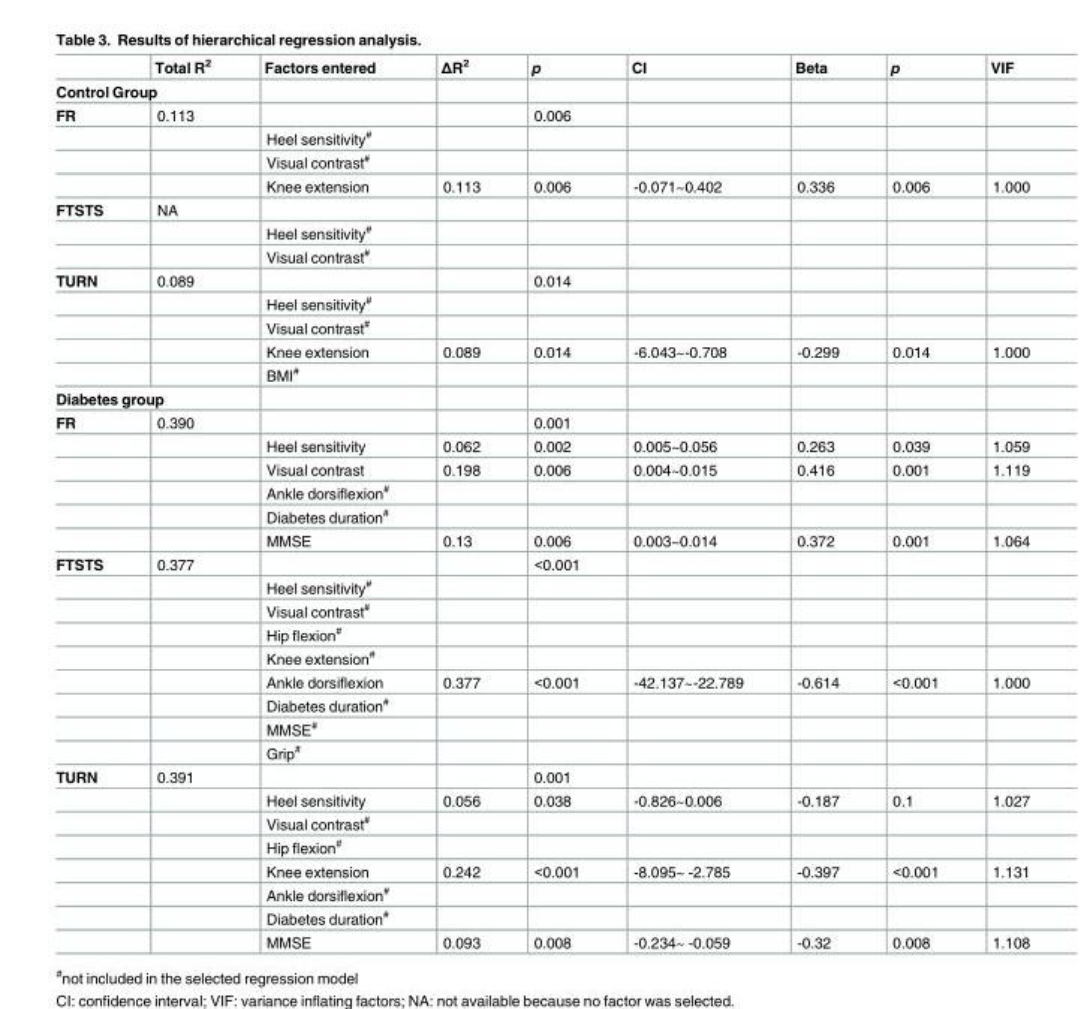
<table><thead><tr><td></td><td>Total R<sup>2</sup></td><td>Factors entered</td><td>ΔR<sup>2</sup></td><td>p</td><td>CI</td><td>Beta</td><td>p</td><td>VIF</td></tr></thead><tbody><tr><td colspan="9">Control Group</td></tr><tr><td rowspan="4">FR</td><td>0.113</td><td></td><td></td><td>0.006</td><td></td><td></td><td></td><td></td></tr><tr><td></td><td>Heel sensitivity<sup>#</sup></td><td></td><td></td><td></td><td></td><td></td><td></td></tr><tr><td></td><td>Visual contrast<sup>#</sup></td><td></td><td></td><td></td><td></td><td></td><td></td></tr><tr><td></td><td>Knee extension</td><td>0.113</td><td>0.006</td><td>-0.071~0.402</td><td>0.336</td><td>0.006</td><td>1.000</td></tr><tr><td rowspan="3">FTSTS</td><td>NA</td><td></td><td></td><td></td><td></td><td></td><td></td><td></td></tr><tr><td></td><td>Heel sensitivity<sup>#</sup></td><td></td><td></td><td></td><td></td><td></td><td></td></tr><tr><td></td><td>Visual contrast<sup>#</sup></td><td></td><td></td><td></td><td></td><td></td><td></td></tr><tr><td rowspan="5">TURN</td><td>0.089</td><td></td><td></td><td>0.014</td><td></td><td></td><td></td><td></td></tr><tr><td></td><td>Heel sensitivity<sup>#</sup></td><td></td><td></td><td></td><td></td><td></td><td></td></tr><tr><td></td><td>Visual contrast<sup>#</sup></td><td></td><td></td><td></td><td></td><td></td><td></td></tr><tr><td></td><td>Knee extension</td><td>0.089</td><td>0.014</td><td>-6.043~-0.708</td><td>-0.299</td><td>0.014</td><td>1.000</td></tr><tr><td></td><td>BMI<sup>#</sup></td><td></td><td></td><td></td><td></td><td></td><td></td></tr><tr><td colspan="9">Diabetes group</td></tr><tr><td rowspan="6">FR</td><td>0.390</td><td></td><td></td><td>0.001</td><td></td><td></td><td></td><td></td></tr><tr><td></td><td>Heel sensitivity</td><td>0.062</td><td>0.002</td><td>0.005~0.056</td><td>0.263</td><td>0.039</td><td>1.059</td></tr><tr><td></td><td>Visual contrast</td><td>0.198</td><td>0.006</td><td>0.004~0.015</td><td>0.416</td><td>0.001</td><td>1.119</td></tr><tr><td></td><td>Ankle dorsiflexion<sup>#</sup></td><td></td><td></td><td></td><td></td><td></td><td></td></tr><tr><td></td><td>Diabetes duration<sup>#</sup></td><td></td><td></td><td></td><td></td><td></td><td></td></tr><tr><td></td><td>MMSE</td><td>0.13</td><td>0.006</td><td>0.003~0.014</td><td>0.372</td><td>0.001</td><td>1.064</td></tr><tr><td rowspan="9">FTSTS</td><td>0.377</td><td></td><td></td><td>&lt;0.001</td><td></td><td></td><td></td><td></td></tr><tr><td></td><td>Heel sensitivity<sup>#</sup></td><td></td><td></td><td></td><td></td><td></td><td></td></tr><tr><td></td><td>Visual contrast<sup>#</sup></td><td></td><td></td><td></td><td></td><td></td><td></td></tr><tr><td></td><td>Hip flexion<sup>#</sup></td><td></td><td></td><td></td><td></td><td></td><td></td></tr><tr><td></td><td>Knee extension<sup>#</sup></td><td></td><td></td><td></td><td></td><td></td><td></td></tr><tr><td></td><td>Ankle dorsiflexion</td><td>0.377</td><td>&lt;0.001</td><td>-42.137~-22.789</td><td>-0.614</td><td>&lt;0.001</td><td>1.000</td></tr><tr><td></td><td>Diabetes duration<sup>#</sup></td><td></td><td></td><td></td><td></td><td></td><td></td></tr><tr><td></td><td>MMSE<sup>#</sup></td><td></td><td></td><td></td><td></td><td></td><td></td></tr><tr><td></td><td>Grip<sup>#</sup></td><td></td><td></td><td></td><td></td><td></td><td></td></tr><tr><td rowspan="8">TURN</td><td>0.391</td><td></td><td></td><td>0.001</td><td></td><td></td><td></td><td></td></tr><tr><td></td><td>Heel sensitivity</td><td>0.056</td><td>0.038</td><td>-0.826~0.006</td><td>-0.187</td><td>0.1</td><td>1.027</td></tr><tr><td></td><td>Visual contrast<sup>#</sup></td><td></td><td></td><td></td><td></td><td></td><td></td></tr><tr><td></td><td>Hip flexion<sup>#</sup></td><td></td><td></td><td></td><td></td><td></td><td></td></tr><tr><td></td><td>Knee extension</td><td>0.242</td><td>&lt;0.001</td><td>-8.095~ -2.785</td><td>-0.397</td><td>&lt;0.001</td><td>1.131</td></tr><tr><td></td><td>Ankle dorsiflexion<sup>#</sup></td><td></td><td></td><td></td><td></td><td></td><td></td></tr><tr><td></td><td>Diabetes duration<sup>#</sup></td><td></td><td></td><td></td><td></td><td></td><td></td></tr><tr><td></td><td>MMSE</td><td>0.093</td><td>0.008</td><td>-0.234~ -0.059</td><td>-0.32</td><td>0.008</td><td>1.108</td></tr></tbody></table>